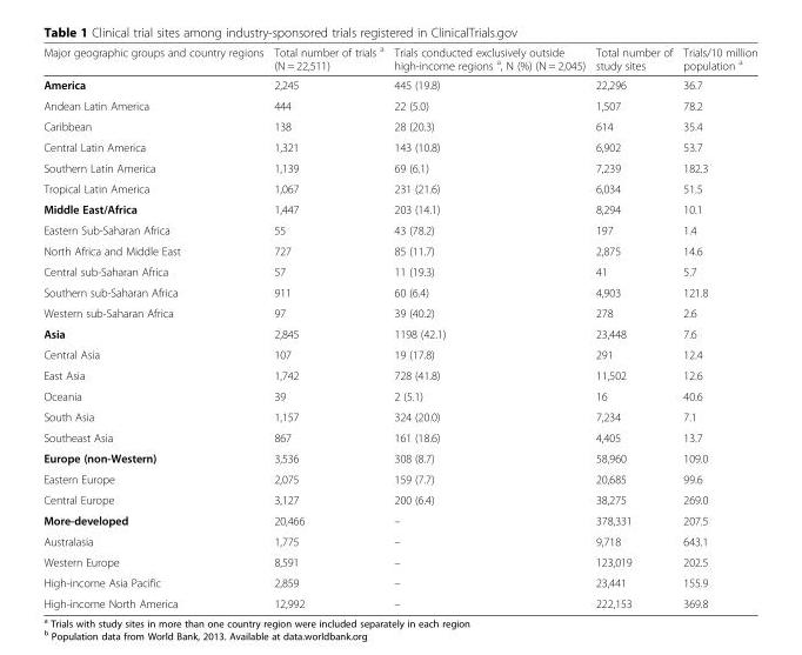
<table><thead><tr><td>Major geographic groups and country regions</td><td>Total number of trials <sup>a</sup> (N = 22,511)</td><td>Trials conducted exclusively outside high-income regions <sup>a</sup>, N (%) (N = 2,045)</td><td>Total number of study sites</td><td>Trials/10 million population <sup>a</sup></td></tr></thead><tbody><tr><td>America</td><td>2,245</td><td>445 (19.8)</td><td>22,296</td><td>36.7</td></tr><tr><td>Andean Latin America</td><td>444</td><td>22 (5.0)</td><td>1,507</td><td>78.2</td></tr><tr><td>Caribbean</td><td>138</td><td>28 (20.3)</td><td>614</td><td>35.4</td></tr><tr><td>Central Latin America</td><td>1,321</td><td>143 (10.8)</td><td>6,902</td><td>53.7</td></tr><tr><td>Southern Latin America</td><td>1,139</td><td>69 (6.1)</td><td>7,239</td><td>182.3</td></tr><tr><td>Tropical Latin America</td><td>1,067</td><td>231 (21.6)</td><td>6,034</td><td>51.5</td></tr><tr><td>Middle East/Africa</td><td>1,447</td><td>203 (14.1)</td><td>8,294</td><td>10.1</td></tr><tr><td>Eastern Sub-Saharan Africa</td><td>55</td><td>43 (78.2)</td><td>197</td><td>1.4</td></tr><tr><td>North Africa and Middle East</td><td>727</td><td>85 (11.7)</td><td>2,875</td><td>14.6</td></tr><tr><td>Central sub-Saharan Africa</td><td>57</td><td>11 (19.3)</td><td>41</td><td>5.7</td></tr><tr><td>Southern sub-Saharan Africa</td><td>911</td><td>60 (6.4)</td><td>4,903</td><td>121.8</td></tr><tr><td>Western sub-Saharan Africa</td><td>97</td><td>39 (40.2)</td><td>278</td><td>2.6</td></tr><tr><td>Asia</td><td>2,845</td><td>1198 (42.1)</td><td>23,448</td><td>7.6</td></tr><tr><td>Central Asia</td><td>107</td><td>19 (17.8)</td><td>291</td><td>12.4</td></tr><tr><td>East Asia</td><td>1,742</td><td>728 (41.8)</td><td>11,502</td><td>12.6</td></tr><tr><td>Oceania</td><td>39</td><td>2 (5.1)</td><td>16</td><td>40.6</td></tr><tr><td>South Asia</td><td>1,157</td><td>324 (20.0)</td><td>7,234</td><td>7.1</td></tr><tr><td>Southeast Asia</td><td>867</td><td>161 (18.6)</td><td>4,405</td><td>13.7</td></tr><tr><td>Europe (non-Western)</td><td>3,536</td><td>308 (8.7)</td><td>58,960</td><td>109.0</td></tr><tr><td>Eastern Europe</td><td>2,075</td><td>159 (7.7)</td><td>20,685</td><td>99.6</td></tr><tr><td>Central Europe</td><td>3,127</td><td>200 (6.4)</td><td>38,275</td><td>269.0</td></tr><tr><td>More-developed</td><td>20,466</td><td>–</td><td>378,331</td><td>207.5</td></tr><tr><td>Australasia</td><td>1,775</td><td>–</td><td>9,718</td><td>643.1</td></tr><tr><td>Western Europe</td><td>8,591</td><td>–</td><td>123,019</td><td>202.5</td></tr><tr><td>High-income Asia Pacific</td><td>2,859</td><td>–</td><td>23,441</td><td>155.9</td></tr><tr><td>High-income North America</td><td>12,992</td><td>–</td><td>222,153</td><td>369.8</td></tr></tbody></table>